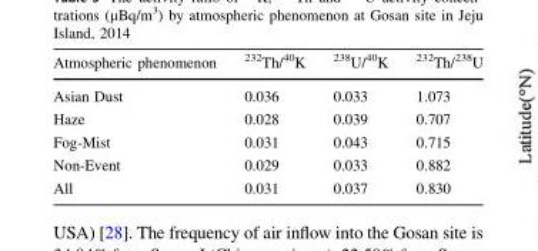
<table><thead><tr><td>Atmospheric phenomenon</td><td><sup>232</sup>Th/<sup>40</sup>K</td><td><sup>238</sup>U/<sup>40</sup>K</td><td><sup>232</sup>Th/<sup>238</sup>U</td></tr></thead><tbody><tr><td>Asian Dust</td><td>0.036</td><td>0.033</td><td>1.073</td></tr><tr><td>Haze</td><td>0.028</td><td>0.039</td><td>0.707</td></tr><tr><td>Fog-Mist</td><td>0.031</td><td>0.043</td><td>0.715</td></tr><tr><td>Non-Event</td><td>0.029</td><td>0.033</td><td>0.882</td></tr><tr><td>All</td><td>0.031</td><td>0.037</td><td>0.830</td></tr></tbody></table>